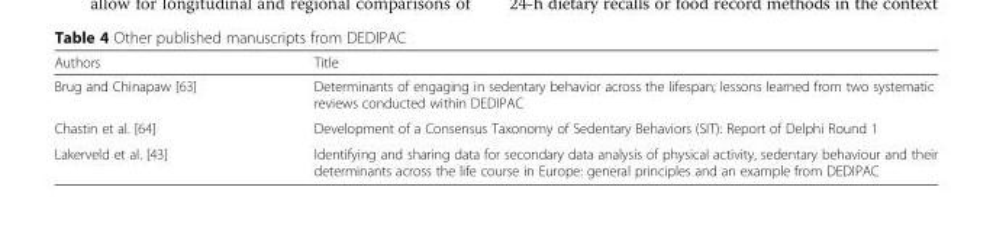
<table><thead><tr><td>Authors</td><td>Title</td></tr></thead><tbody><tr><td>Brug and Chinapaw [63]</td><td>Determinants of engaging in sedentary behavior across the lifespan; lessons learned from two systematic reviews conducted within DEDIPAC</td></tr><tr><td>Chastin et al. [64]</td><td>Development of a Consensus Taxonomy of Sedentary Behaviors (SIT): Report of Delphi Round 1</td></tr><tr><td>Lakerveld et al. [43]</td><td>Identifying and sharing data for secondary data analysis of physical activity, sedentary behaviour and their determinants across the life course in Europe: general principles and an example from DEDIPAC</td></tr></tbody></table>